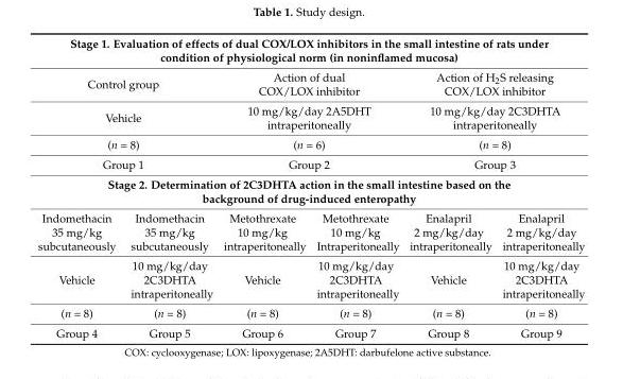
<table><tbody><tr><td colspan="6">Stage 1. Evaluation of effects of dual COX/LOX inhibitors in the small intestine of rats under condition of physiological norm (in noninflamed mucosa)</td></tr><tr><td colspan="2">Control group</td><td colspan="2">Action of dual COX/LOX inhibitor</td><td colspan="2">Action of H<sub>2</sub>S releasing COX/LOX inhibitor</td></tr><tr><td colspan="2">Vehicle</td><td colspan="2">10 mg/kg/day 2A5DHT intraperitoneally</td><td colspan="2">10 mg/kg/day 2C3DHTA intraperitoneally</td></tr><tr><td colspan="2">(n = 8)</td><td colspan="2">(n = 6)</td><td colspan="2">(n = 8)</td></tr><tr><td colspan="2">Group 1</td><td colspan="2">Group 2</td><td colspan="2">Group 3</td></tr><tr><td colspan="6">Stage 2. Determination of 2C3DHTA action in the small intestine based on the background of drug-induced enteropathy</td></tr><tr><td>Indomethacin 35 mg/kg subcutaneously</td><td>Indomethacin 35 mg/kg subcutaneously</td><td>Metothrexate 10 mg/kg intraperitoneally</td><td>Metothrexate 10 mg/kg Intraperitoneally</td><td>Enalapril 2 mg/kg/day intraperitoneally</td><td>Enalapril 2 mg/kg/day intraperitoneally</td></tr><tr><td>Vehicle</td><td>10 mg/kg/day 2C3DHTA intraperitoneally</td><td>Vehicle</td><td>10 mg/kg/day 2C3DHTA intraperitoneally</td><td>Vehicle</td><td>10 mg/kg/day 2C3DHTA intraperitoneally</td></tr><tr><td>(n = 8)</td><td>(n = 8)</td><td>(n = 8)</td><td>(n = 8)</td><td>(n = 8)</td><td>(n = 8)</td></tr><tr><td>Group 4</td><td>Group 5</td><td>Group 6</td><td>Group 7</td><td>Group 8</td><td>Group 9</td></tr></tbody></table>